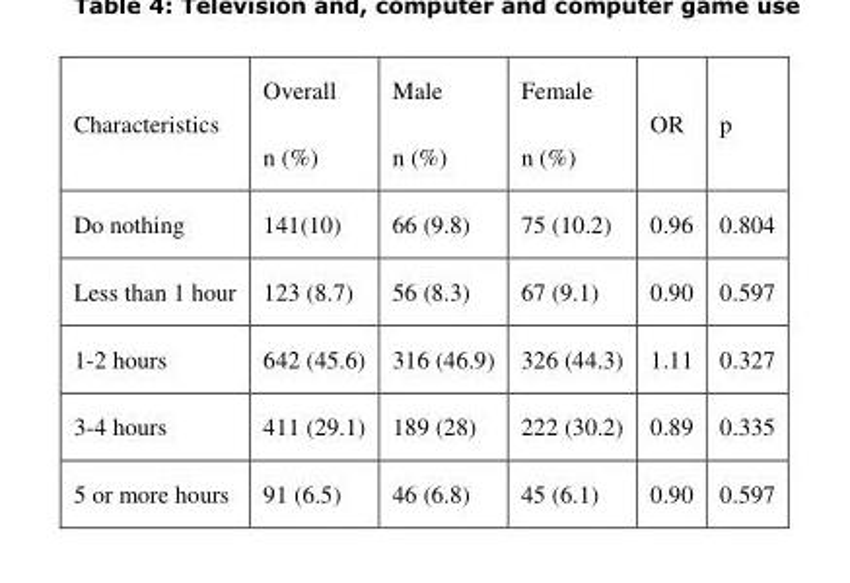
<table><thead><tr><td>Characteristics</td><td>Overall n (%)</td><td>Male n (%)</td><td>Female n (%)</td><td>OR</td><td>p</td></tr></thead><tbody><tr><td>Do nothing</td><td>141(10)</td><td>66 (9.8)</td><td>75 (10.2)</td><td>0.96</td><td>0.804</td></tr><tr><td>Less than 1 hour</td><td>123 (8.7)</td><td>56 (8.3)</td><td>67 (9.1)</td><td>0.90</td><td>0.597</td></tr><tr><td>1-2 hours</td><td>642 (45.6)</td><td>316 (46.9)</td><td>326 (44.3)</td><td>1.11</td><td>0.327</td></tr><tr><td>3-4 hours</td><td>411 (29.1)</td><td>189 (28)</td><td>222 (30.2)</td><td>0.89</td><td>0.335</td></tr><tr><td>5 or more hours</td><td>91 (6.5)</td><td>46 (6.8)</td><td>45 (6.1)</td><td>0.90</td><td>0.597</td></tr></tbody></table>